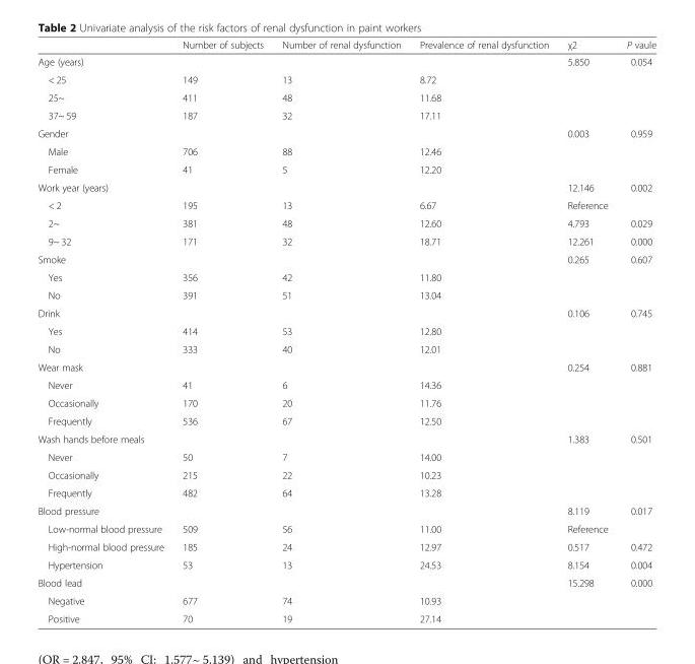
<table><thead><tr><td></td><td>Number of subjects</td><td>Number of renal dysfunction</td><td>Prevalence of renal dysfunction</td><td>χ2</td><td>P vaule</td></tr></thead><tbody><tr><td>Age (years)</td><td></td><td></td><td></td><td>5.850</td><td>0.054</td></tr><tr><td>&lt; 25</td><td>149</td><td>13</td><td>8.72</td><td></td><td></td></tr><tr><td>25~</td><td>411</td><td>48</td><td>11.68</td><td></td><td></td></tr><tr><td>37~ 59</td><td>187</td><td>32</td><td>17.11</td><td></td><td></td></tr><tr><td>Gender</td><td></td><td></td><td></td><td>0.003</td><td>0.959</td></tr><tr><td>Male</td><td>706</td><td>88</td><td>12.46</td><td></td><td></td></tr><tr><td>Female</td><td>41</td><td>5</td><td>12.20</td><td></td><td></td></tr><tr><td>Work year (years)</td><td></td><td></td><td></td><td>12.146</td><td>0.002</td></tr><tr><td>&lt; 2</td><td>195</td><td>13</td><td>6.67</td><td>Reference</td><td></td></tr><tr><td>2~</td><td>381</td><td>48</td><td>12.60</td><td>4.793</td><td>0.029</td></tr><tr><td>9~ 32</td><td>171</td><td>32</td><td>18.71</td><td>12.261</td><td>0.000</td></tr><tr><td>Smoke</td><td></td><td></td><td></td><td>0.265</td><td>0.607</td></tr><tr><td>Yes</td><td>356</td><td>42</td><td>11.80</td><td></td><td></td></tr><tr><td>No</td><td>391</td><td>51</td><td>13.04</td><td></td><td></td></tr><tr><td>Drink</td><td></td><td></td><td></td><td>0.106</td><td>0.745</td></tr><tr><td>Yes</td><td>414</td><td>53</td><td>12.80</td><td></td><td></td></tr><tr><td>No</td><td>333</td><td>40</td><td>12.01</td><td></td><td></td></tr><tr><td>Wear mask</td><td></td><td></td><td></td><td>0.254</td><td>0.881</td></tr><tr><td>Never</td><td>41</td><td>6</td><td>14.36</td><td></td><td></td></tr><tr><td>Occasionally</td><td>170</td><td>20</td><td>11.76</td><td></td><td></td></tr><tr><td>Frequently</td><td>536</td><td>67</td><td>12.50</td><td></td><td></td></tr><tr><td>Wash hands before meals</td><td></td><td></td><td></td><td>1.383</td><td>0.501</td></tr><tr><td>Never</td><td>50</td><td>7</td><td>14.00</td><td></td><td></td></tr><tr><td>Occasionally</td><td>215</td><td>22</td><td>10.23</td><td></td><td></td></tr><tr><td>Frequently</td><td>482</td><td>64</td><td>13.28</td><td></td><td></td></tr><tr><td>Blood pressure</td><td></td><td></td><td></td><td>8.119</td><td>0.017</td></tr><tr><td>Low-normal blood pressure</td><td>509</td><td>56</td><td>11.00</td><td>Reference</td><td></td></tr><tr><td>High-normal blood pressure</td><td>185</td><td>24</td><td>12.97</td><td>0.517</td><td>0.472</td></tr><tr><td>Hypertension</td><td>53</td><td>13</td><td>24.53</td><td>8.154</td><td>0.004</td></tr><tr><td>Blood lead</td><td></td><td></td><td></td><td>15.298</td><td>0.000</td></tr><tr><td>Negative</td><td>677</td><td>74</td><td>10.93</td><td></td><td></td></tr><tr><td>Positive</td><td>70</td><td>19</td><td>27.14</td><td></td><td></td></tr></tbody></table>